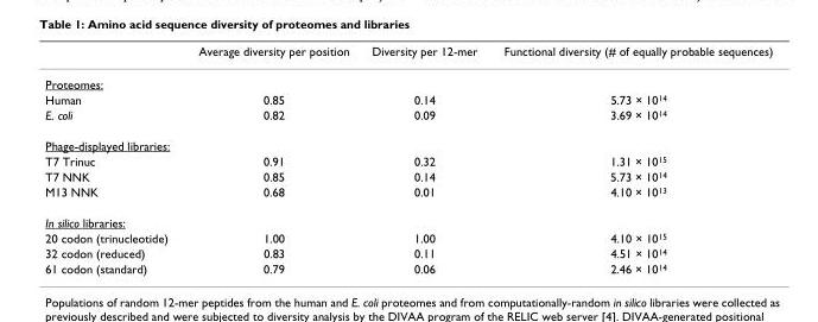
<table><thead><tr><td></td><td>Average diversity per position</td><td>Diversity per 12-mer</td><td>Functional diversity (# of equally probable sequences)</td></tr></thead><tbody><tr><td colspan="4">Proteomes:</td></tr><tr><td>Human</td><td>0.85</td><td>0.14</td><td>5.73 × 10<sup>14</sup></td></tr><tr><td>E. coli</td><td>0.82</td><td>0.09</td><td>3.69 × 10<sup>14</sup></td></tr><tr><td colspan="4">Phage-displayed libraries:</td></tr><tr><td>T7 Trinuc</td><td>0.91</td><td>0.32</td><td>1.31 × 10<sup>15</sup></td></tr><tr><td>T7 NNK</td><td>0.85</td><td>0.14</td><td>5.73 × 10<sup>14</sup></td></tr><tr><td>M13 NNK</td><td>0.68</td><td>0.01</td><td>4.10 × 10<sup>13</sup></td></tr><tr><td colspan="4">In silico libraries:</td></tr><tr><td>20 codon (trinucleotide)</td><td>1.00</td><td>1.00</td><td>4.10 × 10<sup>15</sup></td></tr><tr><td>32 codon (reduced)</td><td>0.83</td><td>0.11</td><td>4.51 × 10<sup>14</sup></td></tr><tr><td>61 codon (standard)</td><td>0.79</td><td>0.06</td><td>2.46 × 10<sup>14</sup></td></tr></tbody></table>